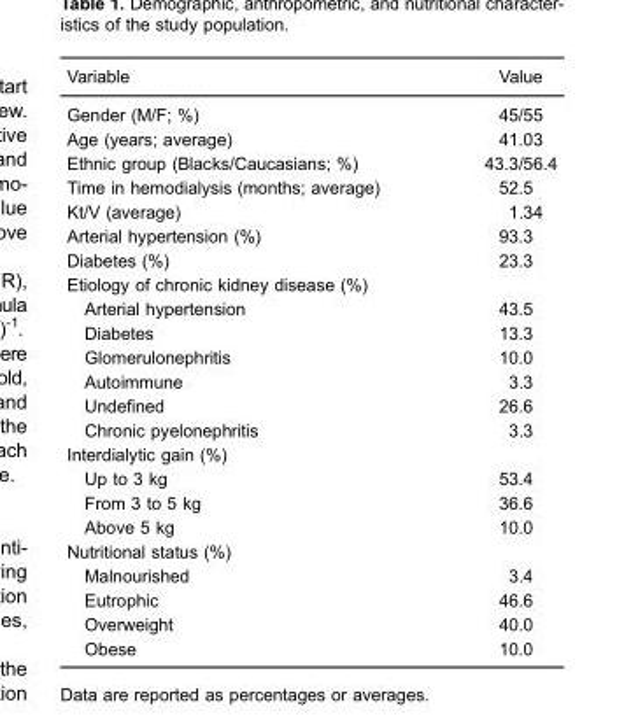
<table><thead><tr><td>Variable</td><td>Value</td></tr></thead><tbody><tr><td>Gender (M/F; %)</td><td>45/55</td></tr><tr><td>Age (years; average)</td><td>41.03</td></tr><tr><td>Ethnic group (Blacks/Caucasians; %)</td><td>43.3/56.4</td></tr><tr><td>Time in hemodialysis (months; average)</td><td>52.5</td></tr><tr><td>Kt/V (average)</td><td>1.34</td></tr><tr><td>Arterial hypertension (%)</td><td>93.3</td></tr><tr><td>Diabetes (%)</td><td>23.3</td></tr><tr><td colspan="2">Etiology of chronic kidney disease (%)</td></tr><tr><td>Arterial hypertension</td><td>43.5</td></tr><tr><td>Diabetes</td><td>13.3</td></tr><tr><td>Glomerulonephritis</td><td>10.0</td></tr><tr><td>Autoimmune</td><td>3.3</td></tr><tr><td>Undefined</td><td>26.6</td></tr><tr><td>Chronic pyelonephritis</td><td>3.3</td></tr><tr><td colspan="2">Interdialytic gain (%)</td></tr><tr><td>Up to 3 kg</td><td>53.4</td></tr><tr><td>From 3 to 5 kg</td><td>36.6</td></tr><tr><td>Above 5 kg</td><td>10.0</td></tr><tr><td colspan="2">Nutritional status (%)</td></tr><tr><td>Malnourished</td><td>3.4</td></tr><tr><td>Eutrophic</td><td>46.6</td></tr><tr><td>Overweight</td><td>40.0</td></tr><tr><td>Obese</td><td>10.0</td></tr></tbody></table>